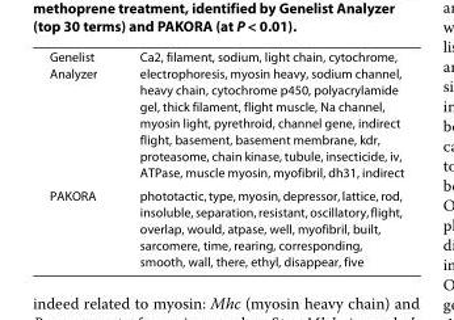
<table><tbody><tr><td>Genelist Analyzer</td><td>Ca2, filament, sodium, light chain, cytochrome, electrophoresis, myosin heavy, sodium channel, heavy chain, cytochrome p450, polyacrylamide gel, thick filament, flight muscle, Na channel, myosin light, pyrethroid, channel gene, indirect flight, basement, basement membrane, kdr, proteasome, chain kinase, tubule, insecticide, iv, ATPase, muscle myosin, myofibril, dh31, indirect</td></tr><tr><td>PAKORA</td><td>phototactic, type, myosin, depressor, lattice, rod, insoluble, separation, resistant, oscillatory, flight, overlap, would, atpase, well, myofibril, built, sarcomere, time, rearing, corresponding, smooth, wall, there, ethyl, disappear, five</td></tr></tbody></table>